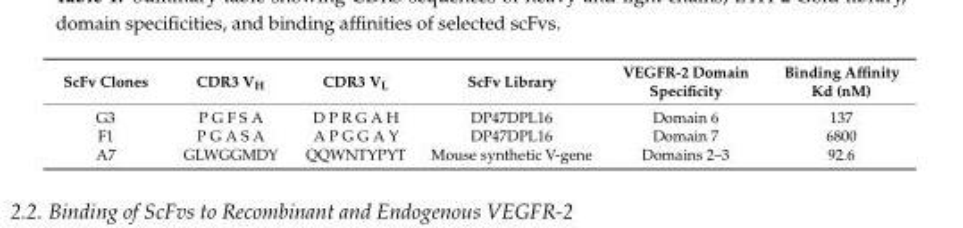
<table><thead><tr><td>ScFv Clones</td><td>CDR3 V<sub>H</sub></td><td>CDR3 V<sub>L</sub></td><td>ScFv Library</td><td>VEGFR-2 Domain Specificity</td><td>Binding Affinity Kd (nM)</td></tr></thead><tbody><tr><td>G3</td><td>P G F S A</td><td>D P R G A H</td><td>DP47DPL16</td><td>Domain 6</td><td>137</td></tr><tr><td>F1</td><td>P G A S A</td><td>A P G G A Y</td><td>DP47DPL16</td><td>Domain 7</td><td>6800</td></tr><tr><td>A7</td><td>GLWGGMDY</td><td>QQWNTYPYT</td><td>Mouse synthetic V-gene</td><td>Domains 2–3</td><td>92.6</td></tr></tbody></table>